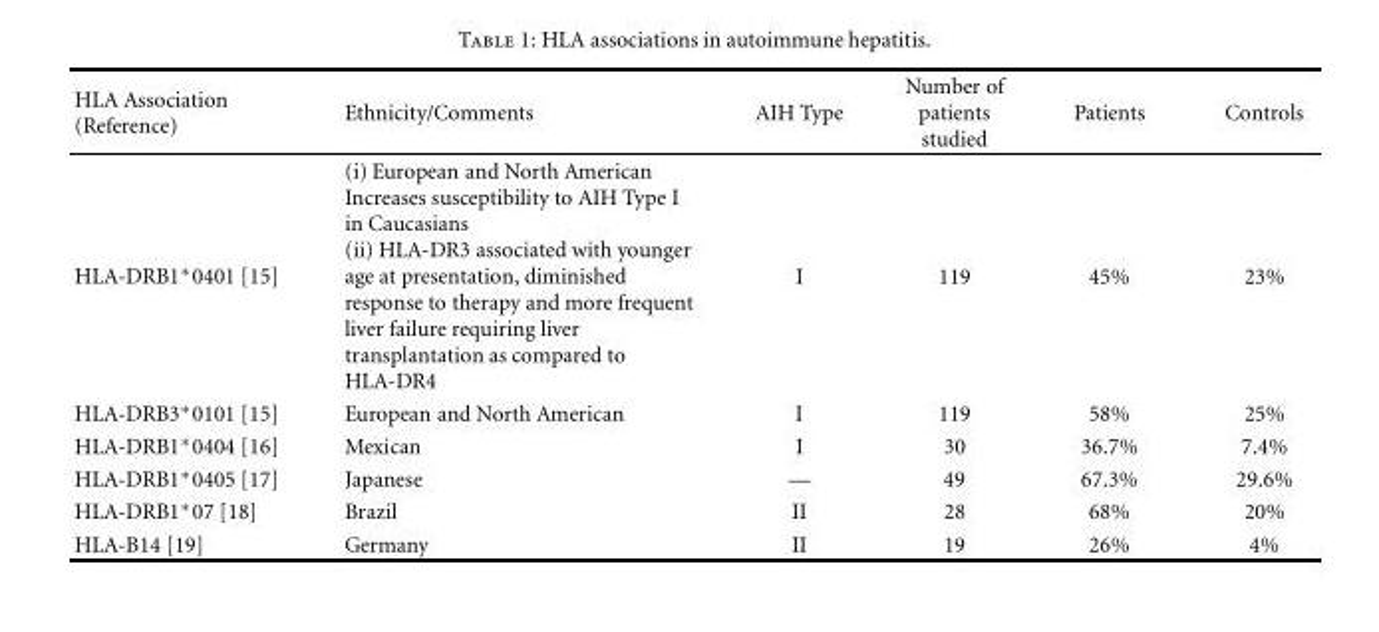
<table><thead><tr><td>HLA Association (Reference)</td><td>Ethnicity/Comments</td><td>AIH Type</td><td>Number of patients studied</td><td>Patients</td><td>Controls</td></tr></thead><tbody><tr><td>HLA-DRB1∗0401 [15]</td><td>(i) European and North American Increases susceptibility to AIH Type I in Caucasians (ii) HLA-DR3 associated with younger age at presentation, diminished response to therapy and more frequent liver failure requiring liver transplantation as compared to HLA-DR4</td><td>I</td><td>119</td><td>45%</td><td>23%</td></tr><tr><td>HLA-DRB3∗0101 [15]</td><td>European and North American</td><td>I</td><td>119</td><td>58%</td><td>25%</td></tr><tr><td>HLA-DRB1∗0404 [16]</td><td>Mexican</td><td>I</td><td>30</td><td>36.7%</td><td>7.4%</td></tr><tr><td>HLA-DRB1∗0405 [17]</td><td>Japanese</td><td>—</td><td>49</td><td>67.3%</td><td>29.6%</td></tr><tr><td>HLA-DRB1∗07 [18]</td><td>Brazil</td><td>II</td><td>28</td><td>68%</td><td>20%</td></tr><tr><td>HLA-B14 [19]</td><td>Germany</td><td>II</td><td>19</td><td>26%</td><td>4%</td></tr></tbody></table>